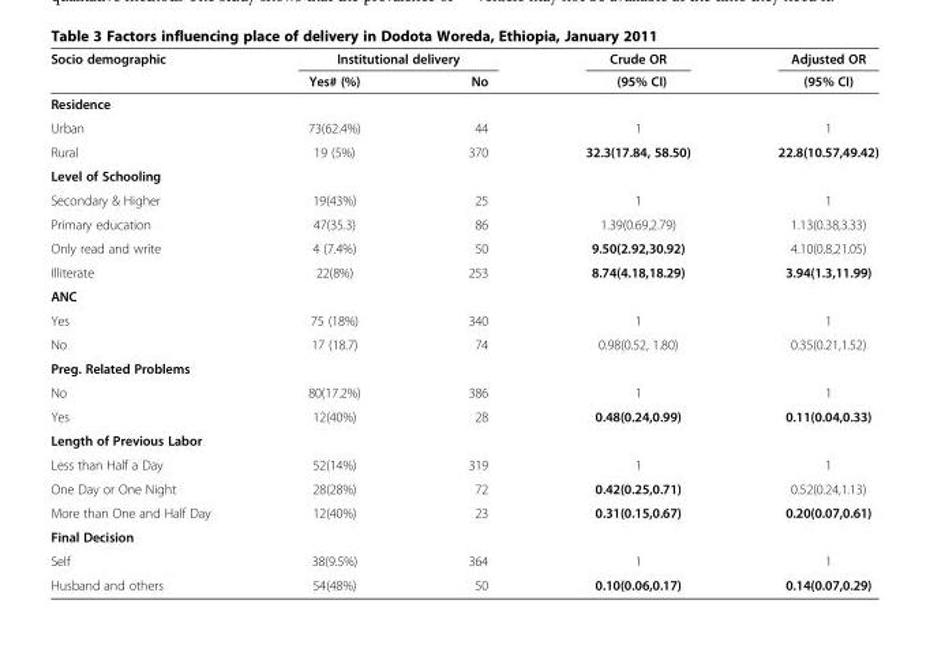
<table><thead><tr><td rowspan="2">Socio demographic</td><td colspan="2">Institutional delivery</td><td rowspan="2">Crude OR (95% CI)</td><td rowspan="2">Adjusted OR (95% CI)</td></tr><tr><td>Yes# (%)</td><td>No</td></tr></thead><tbody><tr><td colspan="5">Residence</td></tr><tr><td>Urban</td><td>73(62.4%)</td><td>44</td><td>1</td><td>1</td></tr><tr><td>Rural</td><td>19 (5%)</td><td>370</td><td>32.3(17.84, 58.50)</td><td>22.8(10.57,49.42)</td></tr><tr><td colspan="5">Level of Schooling</td></tr><tr><td>Secondary &amp; Higher</td><td>19(43%)</td><td>25</td><td>1</td><td>1</td></tr><tr><td>Primary education</td><td>47(35.3)</td><td>86</td><td>1.39(0.69,2.79)</td><td>1.13(0.38,3.33)</td></tr><tr><td>Only read and write</td><td>4 (7.4%)</td><td>50</td><td>9.50(2.92,30.92)</td><td>4.10(0.8,21.05)</td></tr><tr><td>Illiterate</td><td>22(8%)</td><td>253</td><td>8.74(4.18,18.29)</td><td>3.94(1.3,11.99)</td></tr><tr><td colspan="5">ANC</td></tr><tr><td>Yes</td><td>75 (18%)</td><td>340</td><td>1</td><td>1</td></tr><tr><td>No</td><td>17 (18.7)</td><td>74</td><td>0.98(0.52, 1.80)</td><td>0.35(0.21,1.52)</td></tr><tr><td colspan="5">Preg. Related Problems</td></tr><tr><td>No</td><td>80(17.2%)</td><td>386</td><td>1</td><td>1</td></tr><tr><td>Yes</td><td>12(40%)</td><td>28</td><td>0.48(0.24,0.99)</td><td>0.11(0.04,0.33)</td></tr><tr><td colspan="5">Length of Previous Labor</td></tr><tr><td>Less than Half a Day</td><td>52(14%)</td><td>319</td><td>1</td><td>1</td></tr><tr><td>One Day or One Night</td><td>28(28%)</td><td>72</td><td>0.42(0.25,0.71)</td><td>0.52(0.24,1.13)</td></tr><tr><td>More than One and Half Day</td><td>12(40%)</td><td>23</td><td>0.31(0.15,0.67)</td><td>0.20(0.07,0.61)</td></tr><tr><td colspan="5">Final Decision</td></tr><tr><td>Self</td><td>38(9.5%)</td><td>364</td><td>1</td><td>1</td></tr><tr><td>Husband and others</td><td>54(48%)</td><td>50</td><td>0.10(0.06,0.17)</td><td>0.14(0.07,0.29)</td></tr></tbody></table>